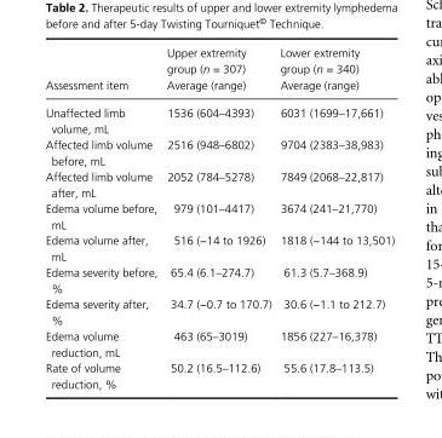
<table><thead><tr><td>Assessment item</td><td>Upper extremity group (n = 307) Average (range)</td><td>Lower extremity group (n = 340) Average (range)</td></tr></thead><tbody><tr><td>Unaffected limb volume, mL</td><td>1536 (604–4393)</td><td>6031 (1699–17,661)</td></tr><tr><td>Affected limb volume before, mL</td><td>2516 (948–6802)</td><td>9704 (2383–38,983)</td></tr><tr><td>Affected limb volume after, mL</td><td>2052 (784–5278)</td><td>7849 (2068–22,817)</td></tr><tr><td>Edema volume before, mL</td><td>979 (101–4417)</td><td>3674 (241–21,770)</td></tr><tr><td>Edema volume after, mL</td><td>516 (−14 to 1926)</td><td>1818 (−144 to 13,501)</td></tr><tr><td>Edema severity before, %</td><td>65.4 (6.1–274.7)</td><td>61.3 (5.7–368.9)</td></tr><tr><td>Edema severity after, %</td><td>34.7 (−0.7 to 170.7)</td><td>30.6 (−1.1 to 212.7)</td></tr><tr><td>Edema volume reduction, mL</td><td>463 (65–3019)</td><td>1856 (227–16,378)</td></tr><tr><td>Rate of volume reduction, %</td><td>50.2 (16.5–112.6)</td><td>55.6 (17.8–113.5)</td></tr></tbody></table>